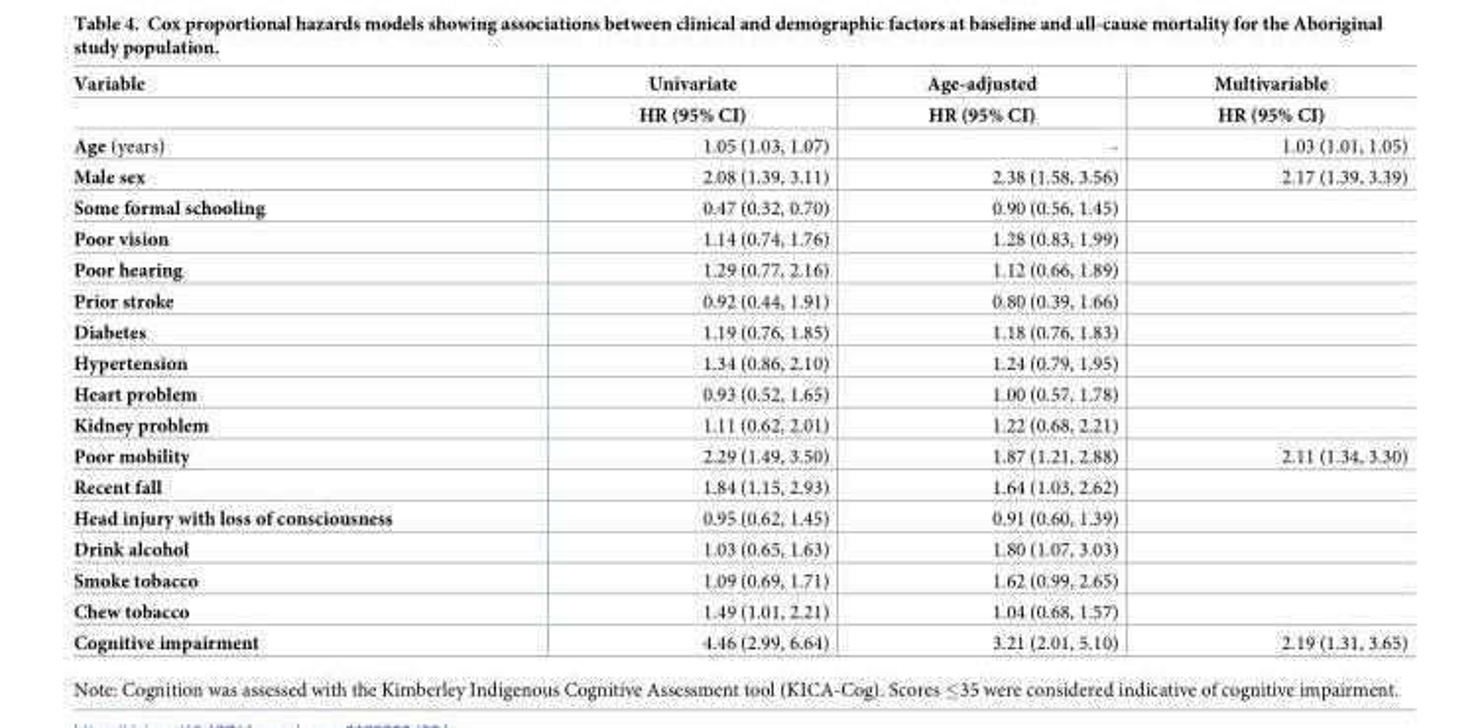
<table><thead><tr><td rowspan="2">Variable</td><td rowspan="2">Univariate HR (95% CI)</td><td rowspan="2">Age-adjusted HR (95% CI)</td><td rowspan="2">Multivariable HR (95% CI)</td></tr><tr></tr></thead><tbody><tr><td>Age (years)</td><td>1.05 (1.03, 1.07)</td><td>-</td><td>1.03 (1.01, 1.05)</td></tr><tr><td>Male sex</td><td>2.08 (1.39, 3.11)</td><td>2.38 (1.58, 3.56)</td><td>2.17 (1.39, 3.39)</td></tr><tr><td>Some formal schooling</td><td>0.47 (0.32, 0.70)</td><td>0.90 (0.56, 1.45)</td><td></td></tr><tr><td>Poor vision</td><td>1.14 (0.74, 1.76)</td><td>1.28 (0.83, 1.99)</td><td></td></tr><tr><td>Poor hearing</td><td>1.29 (0.77, 2.16)</td><td>1.12 (0.66, 1.89)</td><td></td></tr><tr><td>Prior stroke</td><td>0.92 (0.44, 1.91)</td><td>0.80 (0.39, 1.66)</td><td></td></tr><tr><td>Diabetes</td><td>1.19 (0.76, 1.85)</td><td>1.18 (0.76, 1.83)</td><td></td></tr><tr><td>Hypertension</td><td>1.34 (0.86, 2.10)</td><td>1.24 (0.79, 1.95)</td><td></td></tr><tr><td>Heart problem</td><td>0.93 (0.52, 1.65)</td><td>1.00 (0.57, 1.78)</td><td></td></tr><tr><td>Kidney problem</td><td>1.11 (0.62, 2.01)</td><td>1.22 (0.68, 2.21)</td><td></td></tr><tr><td>Poor mobility</td><td>2.29 (1.49, 3.50)</td><td>1.87 (1.21, 2.88)</td><td>2.11 (1.34, 3.30)</td></tr><tr><td>Recent fall</td><td>1.84 (1.15, 2.93)</td><td>1.64 (1.03, 2.62)</td><td></td></tr><tr><td>Head injury with loss of consciousness</td><td>0.95 (0.62, 1.45)</td><td>0.91 (0.60, 1.39)</td><td></td></tr><tr><td>Drink alcohol</td><td>1.03 (0.65, 1.63)</td><td>1.80 (1.07, 3.03)</td><td></td></tr><tr><td>Smoke tobacco</td><td>1.09 (0.69, 1.71)</td><td>1.62 (0.99, 2.65)</td><td></td></tr><tr><td>Chew tobacco</td><td>1.49 (1.01, 2.21)</td><td>1.04 (0.68, 1.57)</td><td></td></tr><tr><td>Cognitive impairment</td><td>4.46 (2.99, 6.64)</td><td>3.21 (2.01, 5.10)</td><td>2.19 (1.31, 3.65)</td></tr></tbody></table>